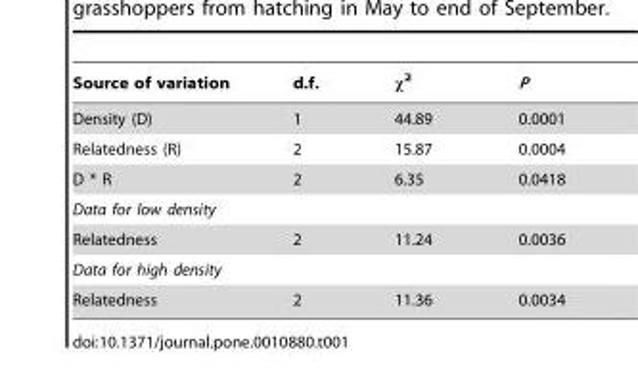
<table><thead><tr><td>Source of variation</td><td>d.f.</td><td>χ<sup>2</sup></td><td>P</td></tr></thead><tbody><tr><td>Density (D)</td><td>1</td><td>44.89</td><td>0.0001</td></tr><tr><td>Relatedness (R)</td><td>2</td><td>15.87</td><td>0.0004</td></tr><tr><td>D * R</td><td>2</td><td>6.35</td><td>0.0418</td></tr><tr><td colspan="4">Data for low density</td></tr><tr><td>Relatedness</td><td>2</td><td>11.24</td><td>0.0036</td></tr><tr><td colspan="4">Data for high density</td></tr><tr><td>Relatedness</td><td>2</td><td>11.36</td><td>0.0034</td></tr></tbody></table>